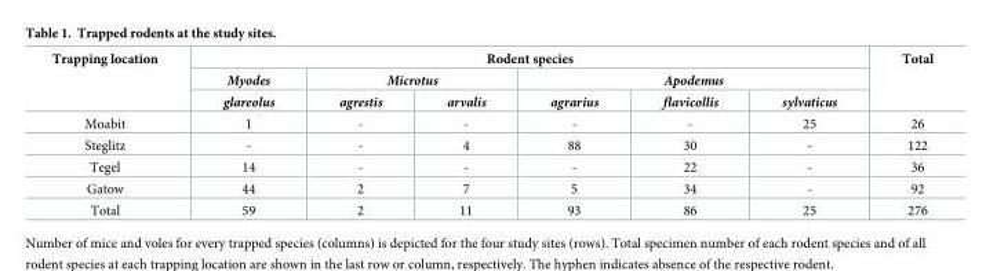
<table><thead><tr><td rowspan="3">Trapping location</td><td colspan="6">Rodent species</td><td rowspan="3">Total</td></tr><tr><td rowspan="2">Myodes glareolus</td><td colspan="2">Microtus</td><td colspan="3">Apodemus</td></tr><tr><td>agrestis</td><td>arvalis</td><td>agrarius</td><td>flavicollis</td><td>sylvaticus</td></tr></thead><tbody><tr><td>Moabit</td><td>1</td><td>-</td><td>-</td><td>-</td><td>-</td><td>25</td><td>26</td></tr><tr><td>Steglitz</td><td>-</td><td>-</td><td>4</td><td>88</td><td>30</td><td>-</td><td>122</td></tr><tr><td>Tegel</td><td>14</td><td>-</td><td>-</td><td>-</td><td>22</td><td>-</td><td>36</td></tr><tr><td>Gatow</td><td>44</td><td>2</td><td>7</td><td>5</td><td>34</td><td>-</td><td>92</td></tr><tr><td>Total</td><td>59</td><td>2</td><td>11</td><td>93</td><td>86</td><td>25</td><td>276</td></tr></tbody></table>